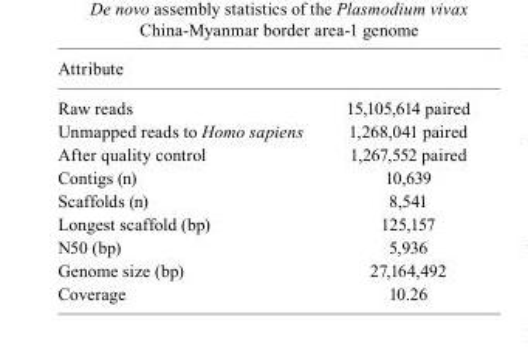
<table><thead><tr><td>Attribute</td><td></td></tr></thead><tbody><tr><td>Raw reads</td><td>15,105,614 paired</td></tr><tr><td>Unmapped reads to Homo sapiens</td><td>1,268,041 paired</td></tr><tr><td>After quality control</td><td>1,267,552 paired</td></tr><tr><td>Contigs (n)</td><td>10,639</td></tr><tr><td>Scaffolds (n)</td><td>8,541</td></tr><tr><td>Longest scaffold (bp)</td><td>125,157</td></tr><tr><td>N50 (bp)</td><td>5,936</td></tr><tr><td>Genome size (bp)</td><td>27,164,492</td></tr><tr><td>Coverage</td><td>10.26</td></tr></tbody></table>